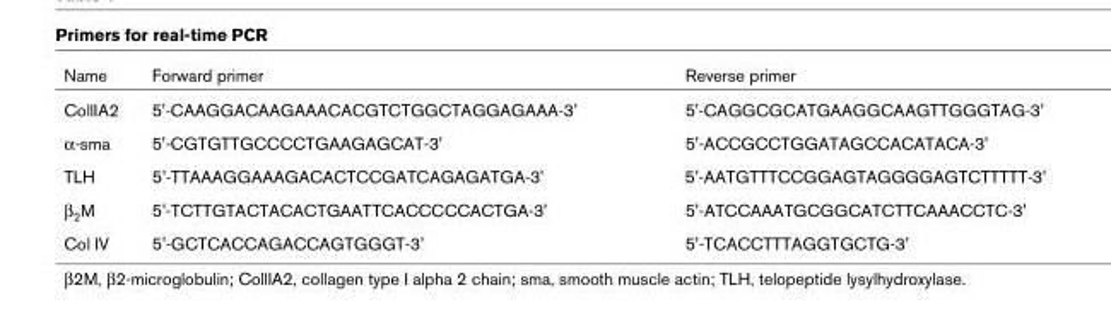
<table><thead><tr><td>Name</td><td>Forward primer</td><td>Reverse primer</td></tr></thead><tbody><tr><td>CollIA2</td><td>5&#x27;-CAAGGACAAGAAACACGTCTGGCTAGGAGAAA-3&#x27;</td><td>5&#x27;-CAGGCGCATGAAGGCAAGTTGGGTAG-3&#x27;</td></tr><tr><td>α-sma</td><td>5&#x27;-CGTGTTGCCCCTGAAGAGCAT-3&#x27;</td><td>5&#x27;-ACCGCCTGGATAGCCACATACA-3&#x27;</td></tr><tr><td>TLH</td><td>5&#x27;-TTAAAGGAAAGACACTCCGATCAGAGATGA-3&#x27;</td><td>5&#x27;-AATGTTTCCGGAGTAGGGGAGTCTTTTT-3&#x27;</td></tr><tr><td>β2M</td><td>5&#x27;-TCTTGTACTACACTGAATTCACCCCCACTGA-3&#x27;</td><td>5&#x27;-ATCCAAATGCGGCATCTTCAAACCTC-3&#x27;</td></tr><tr><td>Col IV</td><td>5&#x27;-GCTCACCAGACCAGTGGGT-3&#x27;</td><td>5&#x27;-TCACCTTTAGGTGCTG-3&#x27;</td></tr></tbody></table>